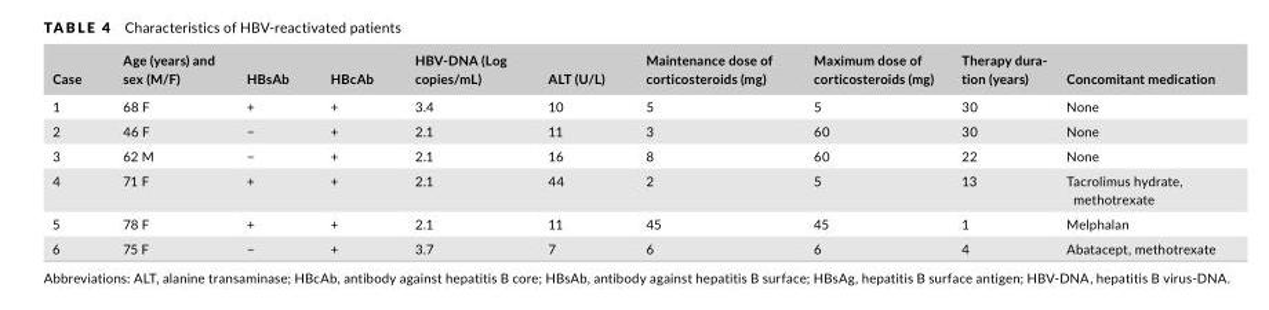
<table><thead><tr><td>Case</td><td>Age (years) and sex (M/F)</td><td>HBsAb</td><td>HBcAb</td><td>HBV‐DNA (Log copies/mL)</td><td>ALT (U/L)</td><td>Maintenance dose of corticosteroids (mg)</td><td>Maximum dose of corticosteroids (mg)</td><td>Therapy dura- tion (years)</td><td>Concomitant medication</td></tr></thead><tbody><tr><td>1</td><td>68 F</td><td>+</td><td>+</td><td>3.4</td><td>10</td><td>5</td><td>5</td><td>30</td><td>None</td></tr><tr><td>2</td><td>46 F</td><td>−</td><td>+</td><td>2.1</td><td>11</td><td>3</td><td>60</td><td>30</td><td>None</td></tr><tr><td>3</td><td>62 M</td><td>−</td><td>+</td><td>2.1</td><td>16</td><td>8</td><td>60</td><td>22</td><td>None</td></tr><tr><td>4</td><td>71 F</td><td>+</td><td>+</td><td>2.1</td><td>44</td><td>2</td><td>5</td><td>13</td><td>Tacrolimus hydrate, methotrexate</td></tr><tr><td>5</td><td>78 F</td><td>+</td><td>+</td><td>2.1</td><td>11</td><td>45</td><td>45</td><td>1</td><td>Melphalan</td></tr><tr><td>6</td><td>75 F</td><td>−</td><td>+</td><td>3.7</td><td>7</td><td>6</td><td>6</td><td>4</td><td>Abatacept, methotrexate</td></tr></tbody></table>